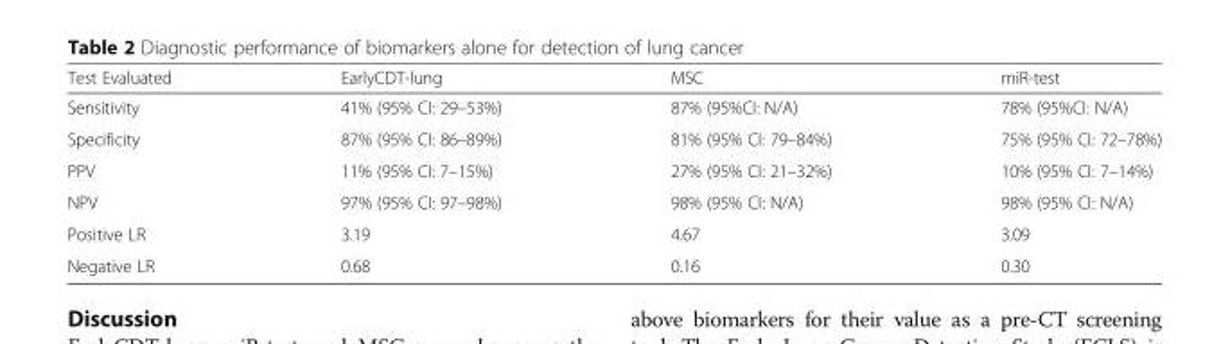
<table><thead><tr><td>Test Evaluated</td><td>EarlyCDT-lung</td><td>MSC</td><td>miR-test</td></tr></thead><tbody><tr><td>Sensitivity</td><td>41% (95% CI: 29–53%)</td><td>87% (95%CI: N/A)</td><td>78% (95%CI: N/A)</td></tr><tr><td>Specificity</td><td>87% (95% CI: 86–89%)</td><td>81% (95% CI: 79–84%)</td><td>75% (95% CI: 72–78%)</td></tr><tr><td>PPV</td><td>11% (95% CI: 7–15%)</td><td>27% (95% CI: 21–32%)</td><td>10% (95% CI: 7–14%)</td></tr><tr><td>NPV</td><td>97% (95% CI: 97–98%)</td><td>98% (95% CI: N/A)</td><td>98% (95% CI: N/A)</td></tr><tr><td>Positive LR</td><td>3.19</td><td>4.67</td><td>3.09</td></tr><tr><td>Negative LR</td><td>0.68</td><td>0.16</td><td>0.30</td></tr></tbody></table>